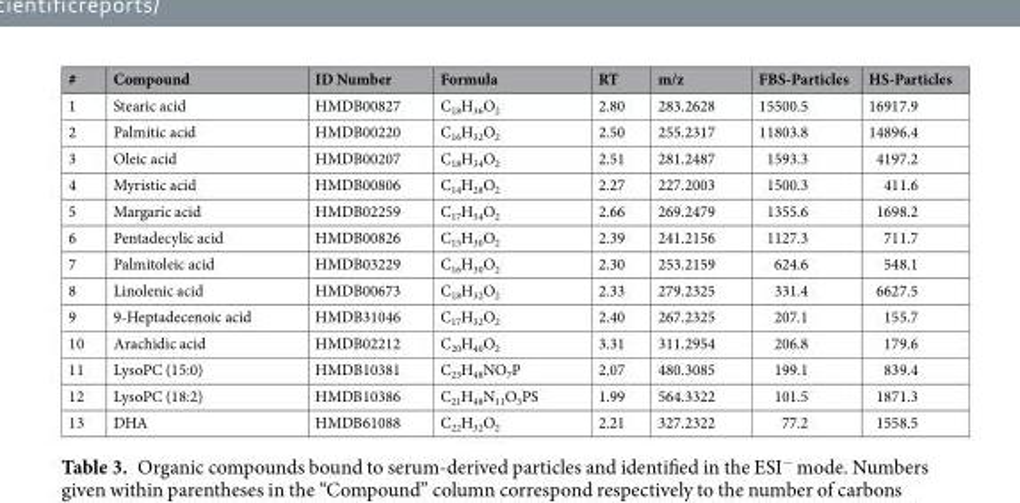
<table><thead><tr><td>#</td><td>Compound</td><td>ID Number</td><td>Formula</td><td>RT</td><td>m/z</td><td>FBS-Particles</td><td>HS-Particles</td></tr></thead><tbody><tr><td>1</td><td>Stearic acid</td><td>HMDB00827</td><td>C<sub>18</sub>H<sub>36</sub>O<sub>2</sub></td><td>2.80</td><td>283.2628</td><td>15500.5</td><td>16917.9</td></tr><tr><td>2</td><td>Palmitic acid</td><td>HMDB00220</td><td>C<sub>16</sub>H<sub>32</sub>O<sub>2</sub></td><td>2.50</td><td>255.2317</td><td>11803.8</td><td>14896.4</td></tr><tr><td>3</td><td>Oleic acid</td><td>HMDB00207</td><td>C<sub>18</sub>H<sub>34</sub>O<sub>2</sub></td><td>2.51</td><td>281.2487</td><td>1593.3</td><td>4197.2</td></tr><tr><td>4</td><td>Myristic acid</td><td>HMDB00806</td><td>C<sub>14</sub>H<sub>28</sub>O<sub>2</sub></td><td>2.27</td><td>227.2003</td><td>1500.3</td><td>411.6</td></tr><tr><td>5</td><td>Margaric acid</td><td>HMDB02259</td><td>C<sub>17</sub>H<sub>34</sub>O<sub>2</sub></td><td>2.66</td><td>269.2479</td><td>1355.6</td><td>1698.2</td></tr><tr><td>6</td><td>Pentadecylic acid</td><td>HMDB00826</td><td>C<sub>15</sub>H<sub>30</sub>O<sub>2</sub></td><td>2.39</td><td>241.2156</td><td>1127.3</td><td>711.7</td></tr><tr><td>7</td><td>Palmitoleic acid</td><td>HMDB03229</td><td>C<sub>16</sub>H<sub>30</sub>O<sub>2</sub></td><td>2.30</td><td>253.2159</td><td>624.6</td><td>548.1</td></tr><tr><td>8</td><td>Linolenic acid</td><td>HMDB00673</td><td>C<sub>18</sub>H<sub>32</sub>O<sub>2</sub></td><td>2.33</td><td>279.2325</td><td>331.4</td><td>6627.5</td></tr><tr><td>9</td><td>9-Heptadecenoic acid</td><td>HMDB31046</td><td>C<sub>17</sub>H<sub>32</sub>O<sub>2</sub></td><td>2.40</td><td>267.2325</td><td>207.1</td><td>155.7</td></tr><tr><td>10</td><td>Arachidic acid</td><td>HMDB02212</td><td>C<sub>20</sub>H<sub>40</sub>O<sub>2</sub></td><td>3.31</td><td>311.2954</td><td>206.8</td><td>179.6</td></tr><tr><td>11</td><td>LysoPC (15:0)</td><td>HMDB10381</td><td>C<sub>23</sub>H<sub>48</sub>NO<sub>7</sub>P</td><td>2.07</td><td>480.3085</td><td>199.1</td><td>839.4</td></tr><tr><td>12</td><td>LysoPC (18:2)</td><td>HMDB10386</td><td>C<sub>21</sub>H<sub>48</sub>N<sub>11</sub>O<sub>3</sub>PS</td><td>1.99</td><td>564.3322</td><td>101.5</td><td>1871.3</td></tr><tr><td>13</td><td>DHA</td><td>HMDB61088</td><td>C<sub>22</sub>H<sub>32</sub>O<sub>2</sub></td><td>2.21</td><td>327.2322</td><td>77.2</td><td>1558.5</td></tr></tbody></table>